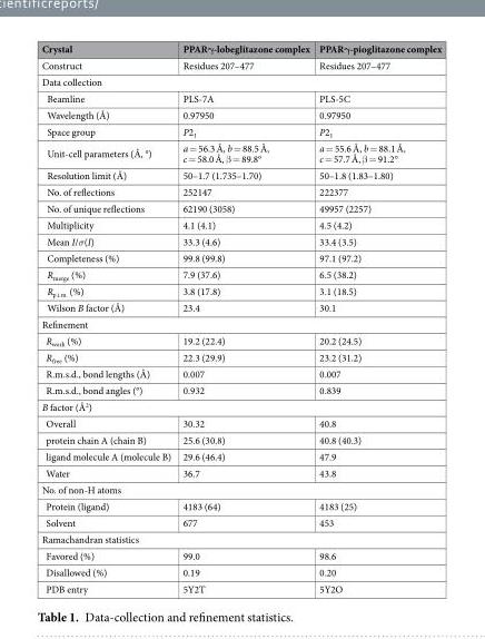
<table><thead><tr><td>Crystal</td><td>PPARγ-lobeglitazone complex</td><td>PPARγ-pioglitazone complex</td></tr></thead><tbody><tr><td>Construct</td><td>Residues 207–477</td><td>Residues 207–477</td></tr><tr><td colspan="3">Data collection</td></tr><tr><td>Beamline</td><td>PLS-7A</td><td>PLS-5C</td></tr><tr><td>Wavelength (Å)</td><td>0.97950</td><td>0.97950</td></tr><tr><td>Space group</td><td>P2<sub>1</sub></td><td>P2<sub>1</sub></td></tr><tr><td>Unit-cell parameters (Å, °)</td><td>a = 56.3 Å, b = 88.5 Å, c = 58.0 Å, β = 89.8°</td><td>a = 55.6 Å, b = 88.1 Å, c = 57.7 Å, β = 91.2°</td></tr><tr><td>Resolution limit (Å)</td><td>50–1.7 (1.735–1.70)</td><td>50–1.8 (1.83–1.80)</td></tr><tr><td>No. of reflections</td><td>252147</td><td>222377</td></tr><tr><td>No. of unique reflections</td><td>62190 (3058)</td><td>49957 (2257)</td></tr><tr><td>Multiplicity</td><td>4.1 (4.1)</td><td>4.5 (4.2)</td></tr><tr><td>Mean I/σ(I)</td><td>33.3 (4.6)</td><td>33.4 (3.5)</td></tr><tr><td>Completeness (%)</td><td>99.8 (99.8)</td><td>97.1 (97.2)</td></tr><tr><td>R<sub>merge</sub> (%)</td><td>7.9 (37.6)</td><td>6.5 (38.2)</td></tr><tr><td>R<sub>p.i.m.</sub> (%)</td><td>3.8 (17.8)</td><td>3.1 (18.5)</td></tr><tr><td>Wilson B factor (Å)</td><td>23.4</td><td>30.1</td></tr><tr><td colspan="3">Refinement</td></tr><tr><td>R<sub>work</sub> (%)</td><td>19.2 (22.4)</td><td>20.2 (24.5)</td></tr><tr><td>R<sub>free</sub> (%)</td><td>22.3 (29.9)</td><td>23.2 (31.2)</td></tr><tr><td>R.m.s.d., bond lengths (Å)</td><td>0.007</td><td>0.007</td></tr><tr><td>R.m.s.d., bond angles (°)</td><td>0.932</td><td>0.839</td></tr><tr><td colspan="3">B factor (Å<sup>2</sup>)</td></tr><tr><td>Overall</td><td>30.32</td><td>40.8</td></tr><tr><td>protein chain A (chain B)</td><td>25.6 (30.8)</td><td>40.8 (40.3)</td></tr><tr><td>ligand molecule A (molecule B)</td><td>29.6 (46.4)</td><td>47.9</td></tr><tr><td>Water</td><td>36.7</td><td>43.8</td></tr><tr><td colspan="3">No. of non-H atoms</td></tr><tr><td>Protein (ligand)</td><td>4183 (64)</td><td>4183 (25)</td></tr><tr><td>Solvent</td><td>677</td><td>453</td></tr><tr><td colspan="3">Ramachandran statistics</td></tr><tr><td>Favored (%)</td><td>99.0</td><td>98.6</td></tr><tr><td>Disallowed (%)</td><td>0.19</td><td>0.20</td></tr><tr><td>PDB entry</td><td>5Y2T</td><td>5Y2O</td></tr></tbody></table>